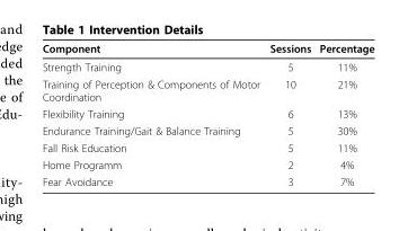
<table><thead><tr><td>Component</td><td>Sessions</td><td>Percentage</td></tr></thead><tbody><tr><td>Strength Training</td><td>5</td><td>11%</td></tr><tr><td>Training of Perception &amp; Components of Motor Coordination</td><td>10</td><td>21%</td></tr><tr><td>Flexibility Training</td><td>6</td><td>13%</td></tr><tr><td>Endurance Training/Gait &amp; Balance Training</td><td>5</td><td>30%</td></tr><tr><td>Fall Risk Education</td><td>5</td><td>11%</td></tr><tr><td>Home Programm</td><td>2</td><td>4%</td></tr><tr><td>Fear Avoidance</td><td>3</td><td>7%</td></tr></tbody></table>